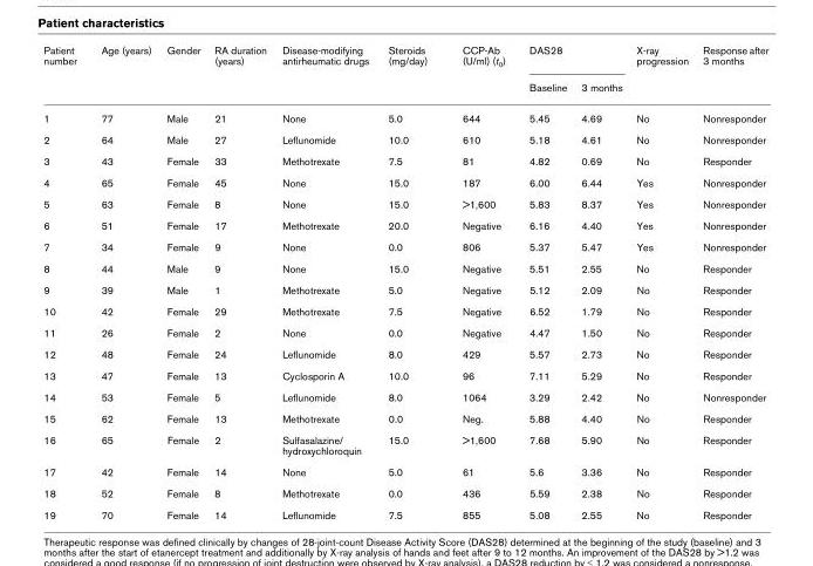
<table><thead><tr><td rowspan="2">Patient number</td><td rowspan="2">Age (years)</td><td rowspan="2">Gender</td><td rowspan="2">RA duration (years)</td><td rowspan="2">Disease-modifying antirheumatic drugs</td><td rowspan="2">Steroids (mg/day)</td><td rowspan="2">CCP-Ab (U/ml) (t<sub>0</sub>)</td><td colspan="2">DAS28</td><td rowspan="2">X-ray progression</td><td rowspan="2">Response after 3 months</td></tr><tr><td>Baseline</td><td>3 months</td></tr></thead><tbody><tr><td>1</td><td>77</td><td>Male</td><td>21</td><td>None</td><td>5.0</td><td>644</td><td>5.45</td><td>4.69</td><td>No</td><td>Nonresponder</td></tr><tr><td>2</td><td>64</td><td>Male</td><td>27</td><td>Leflunomide</td><td>10.0</td><td>610</td><td>5.18</td><td>4.61</td><td>No</td><td>Nonresponder</td></tr><tr><td>3</td><td>43</td><td>Female</td><td>33</td><td>Methotrexate</td><td>7.5</td><td>81</td><td>4.82</td><td>0.69</td><td>No</td><td>Responder</td></tr><tr><td>4</td><td>65</td><td>Female</td><td>45</td><td>None</td><td>15.0</td><td>187</td><td>6.00</td><td>6.44</td><td>Yes</td><td>Nonresponder</td></tr><tr><td>5</td><td>63</td><td>Female</td><td>8</td><td>None</td><td>15.0</td><td>&gt;1,600</td><td>5.83</td><td>8.37</td><td>Yes</td><td>Nonresponder</td></tr><tr><td>6</td><td>51</td><td>Female</td><td>17</td><td>Methotrexate</td><td>20.0</td><td>Negative</td><td>6.16</td><td>4.40</td><td>Yes</td><td>Nonresponder</td></tr><tr><td>7</td><td>34</td><td>Female</td><td>9</td><td>None</td><td>0.0</td><td>806</td><td>5.37</td><td>5.47</td><td>Yes</td><td>Nonresponder</td></tr><tr><td>8</td><td>44</td><td>Male</td><td>9</td><td>None</td><td>15.0</td><td>Negative</td><td>5.51</td><td>2.55</td><td>No</td><td>Responder</td></tr><tr><td>9</td><td>39</td><td>Male</td><td>1</td><td>Methotrexate</td><td>5.0</td><td>Negative</td><td>5.12</td><td>2.09</td><td>No</td><td>Responder</td></tr><tr><td>10</td><td>42</td><td>Female</td><td>29</td><td>Methotrexate</td><td>7.5</td><td>Negative</td><td>6.52</td><td>1.79</td><td>No</td><td>Responder</td></tr><tr><td>11</td><td>26</td><td>Female</td><td>2</td><td>None</td><td>0.0</td><td>Negative</td><td>4.47</td><td>1.50</td><td>No</td><td>Responder</td></tr><tr><td>12</td><td>48</td><td>Female</td><td>24</td><td>Leflunomide</td><td>8.0</td><td>429</td><td>5.57</td><td>2.73</td><td>No</td><td>Responder</td></tr><tr><td>13</td><td>47</td><td>Female</td><td>13</td><td>Cyclosporin A</td><td>10.0</td><td>96</td><td>7.11</td><td>5.29</td><td>No</td><td>Responder</td></tr><tr><td>14</td><td>53</td><td>Female</td><td>5</td><td>Leflunomide</td><td>8.0</td><td>1064</td><td>3.29</td><td>2.42</td><td>No</td><td>Nonresponder</td></tr><tr><td>15</td><td>62</td><td>Female</td><td>13</td><td>Methotrexate</td><td>0.0</td><td>Neg.</td><td>5.88</td><td>4.40</td><td>No</td><td>Responder</td></tr><tr><td>16</td><td>65</td><td>Female</td><td>2</td><td>Sulfasalazine/ hydroxychloroquin</td><td>15.0</td><td>&gt;1,600</td><td>7.68</td><td>5.90</td><td>No</td><td>Responder</td></tr><tr><td>17</td><td>42</td><td>Female</td><td>14</td><td>None</td><td>5.0</td><td>61</td><td>5.6</td><td>3.36</td><td>No</td><td>Responder</td></tr><tr><td>18</td><td>52</td><td>Female</td><td>8</td><td>Methotrexate</td><td>0.0</td><td>436</td><td>5.59</td><td>2.38</td><td>No</td><td>Responder</td></tr><tr><td>19</td><td>70</td><td>Female</td><td>14</td><td>Leflunomide</td><td>7.5</td><td>855</td><td>5.08</td><td>2.55</td><td>No</td><td>Responder</td></tr></tbody></table>